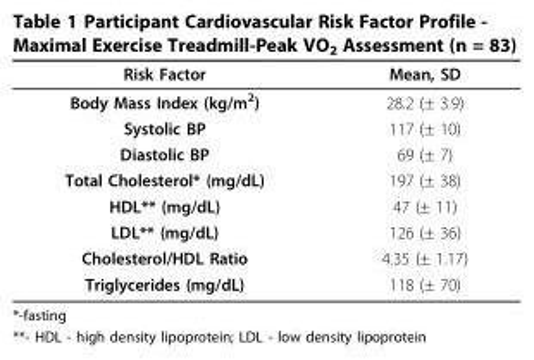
<table><thead><tr><td>Risk Factor</td><td>Mean, SD</td></tr></thead><tbody><tr><td>Body Mass Index (kg/m<sup>2</sup>)</td><td>28.2 (± 3.9)</td></tr><tr><td>Systolic BP</td><td>117 (± 10)</td></tr><tr><td>Diastolic BP</td><td>69 (± 7)</td></tr><tr><td>Total Cholesterol* (mg/dL)</td><td>197 (± 38)</td></tr><tr><td>HDL** (mg/dL)</td><td>47 (± 11)</td></tr><tr><td>LDL** (mg/dL)</td><td>126 (± 36)</td></tr><tr><td>Cholesterol/HDL Ratio</td><td>4.35 (± 1.17)</td></tr><tr><td>Triglycerides (mg/dL)</td><td>118 (± 70)</td></tr></tbody></table>